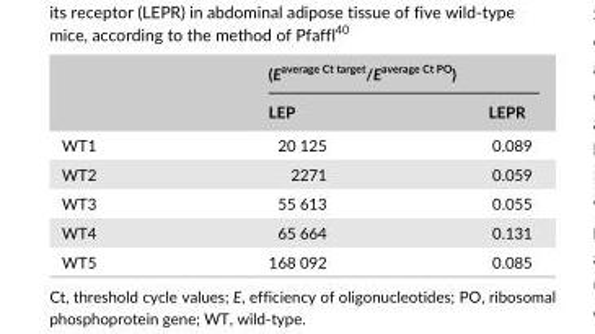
<table><thead><tr><td rowspan="2"></td><td colspan="2">(E<sup>average Ct target</sup>/E<sup>average Ct PO</sup>)</td></tr><tr><td>LEP</td><td>LEPR</td></tr></thead><tbody><tr><td>WT1</td><td>20 125</td><td>0.089</td></tr><tr><td>WT2</td><td>2271</td><td>0.059</td></tr><tr><td>WT3</td><td>55 613</td><td>0.055</td></tr><tr><td>WT4</td><td>65 664</td><td>0.131</td></tr><tr><td>WT5</td><td>168 092</td><td>0.085</td></tr></tbody></table>